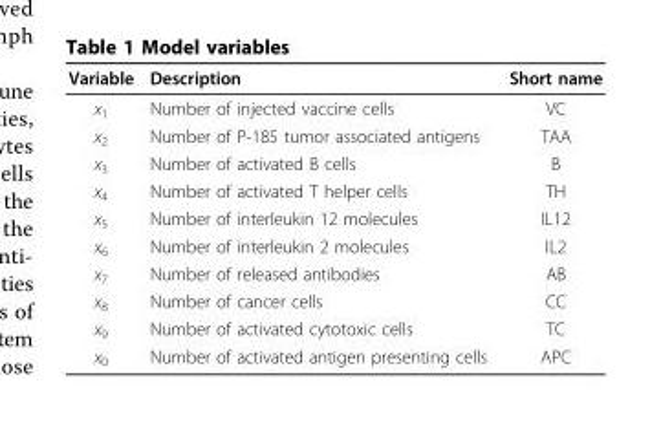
<table><thead><tr><td>Variable</td><td>Description</td><td>Short name</td></tr></thead><tbody><tr><td>x<sub>1</sub></td><td>Number of injected vaccine cells</td><td>VC</td></tr><tr><td>x<sub>2</sub></td><td>Number of P-185 tumor associated antigens</td><td>TAA</td></tr><tr><td>x<sub>3</sub></td><td>Number of activated B cells</td><td>B</td></tr><tr><td>x<sub>4</sub></td><td>Number of activated T helper cells</td><td>TH</td></tr><tr><td>x<sub>5</sub></td><td>Number of interleukin 12 molecules</td><td>IL12</td></tr><tr><td>x<sub>6</sub></td><td>Number of interleukin 2 molecules</td><td>IL2</td></tr><tr><td>x<sub>7</sub></td><td>Number of released antibodies</td><td>AB</td></tr><tr><td>x<sub>8</sub></td><td>Number of cancer cells</td><td>CC</td></tr><tr><td>x<sub>9</sub></td><td>Number of activated cytotoxic cells</td><td>TC</td></tr><tr><td>x<sub>0</sub></td><td>Number of activated antigen presenting cells</td><td>APC</td></tr></tbody></table>